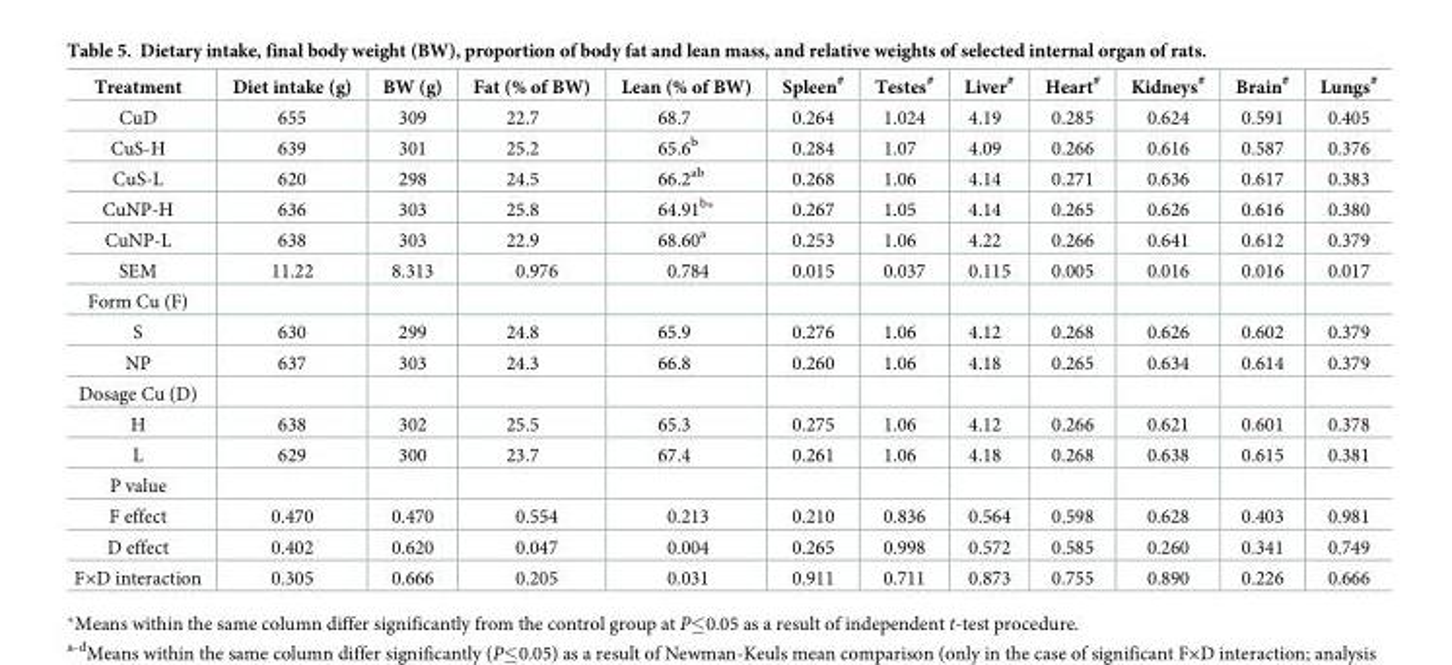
<table><thead><tr><td>Treatment</td><td>Diet intake (g)</td><td>BW (g)</td><td>Fat (% of BW)</td><td>Lean (% of BW)</td><td>Spleen<sup>#</sup></td><td>Testes<sup>#</sup></td><td>Liver<sup>#</sup></td><td>Heart<sup>#</sup></td><td>Kidneys<sup>#</sup></td><td>Brain<sup>#</sup></td><td>Lungs<sup>#</sup></td></tr></thead><tbody><tr><td>CuD</td><td>655</td><td>309</td><td>22.7</td><td>68.7</td><td>0.264</td><td>1.024</td><td>4.19</td><td>0.285</td><td>0.624</td><td>0.591</td><td>0.405</td></tr><tr><td>CuS-H</td><td>639</td><td>301</td><td>25.2</td><td>65.6<sup>b</sup></td><td>0.284</td><td>1.07</td><td>4.09</td><td>0.266</td><td>0.616</td><td>0.587</td><td>0.376</td></tr><tr><td>CuS-L</td><td>620</td><td>298</td><td>24.5</td><td>66.2<sup>ab</sup></td><td>0.268</td><td>1.06</td><td>4.14</td><td>0.271</td><td>0.636</td><td>0.617</td><td>0.383</td></tr><tr><td>CuNP-H</td><td>636</td><td>303</td><td>25.8</td><td>64.91<sup>b</sup>*</td><td>0.267</td><td>1.05</td><td>4.14</td><td>0.265</td><td>0.626</td><td>0.616</td><td>0.380</td></tr><tr><td>CuNP-L</td><td>638</td><td>303</td><td>22.9</td><td>68.60<sup>a</sup></td><td>0.253</td><td>1.06</td><td>4.22</td><td>0.266</td><td>0.641</td><td>0.612</td><td>0.379</td></tr><tr><td>SEM</td><td>11.22</td><td>8.313</td><td>0.976</td><td>0.784</td><td>0.015</td><td>0.037</td><td>0.115</td><td>0.005</td><td>0.016</td><td>0.016</td><td>0.017</td></tr><tr><td colspan="12">Form Cu (F)</td></tr><tr><td>S</td><td>630</td><td>299</td><td>24.8</td><td>65.9</td><td>0.276</td><td>1.06</td><td>4.12</td><td>0.268</td><td>0.626</td><td>0.602</td><td>0.379</td></tr><tr><td>NP</td><td>637</td><td>303</td><td>24.3</td><td>66.8</td><td>0.260</td><td>1.06</td><td>4.18</td><td>0.265</td><td>0.634</td><td>0.614</td><td>0.379</td></tr><tr><td colspan="12">Dosage Cu (D)</td></tr><tr><td>H</td><td>638</td><td>302</td><td>25.5</td><td>65.3</td><td>0.275</td><td>1.06</td><td>4.12</td><td>0.266</td><td>0.621</td><td>0.601</td><td>0.378</td></tr><tr><td>L</td><td>629</td><td>300</td><td>23.7</td><td>67.4</td><td>0.261</td><td>1.06</td><td>4.18</td><td>0.268</td><td>0.638</td><td>0.615</td><td>0.381</td></tr><tr><td colspan="12">P value</td></tr><tr><td>F effect</td><td>0.470</td><td>0.470</td><td>0.554</td><td>0.213</td><td>0.210</td><td>0.836</td><td>0.564</td><td>0.598</td><td>0.628</td><td>0.403</td><td>0.981</td></tr><tr><td>D effect</td><td>0.402</td><td>0.620</td><td>0.047</td><td>0.004</td><td>0.265</td><td>0.998</td><td>0.572</td><td>0.585</td><td>0.260</td><td>0.341</td><td>0.749</td></tr><tr><td>F×D interaction</td><td>0.305</td><td>0.666</td><td>0.205</td><td>0.031</td><td>0.911</td><td>0.711</td><td>0.873</td><td>0.755</td><td>0.890</td><td>0.226</td><td>0.666</td></tr></tbody></table>